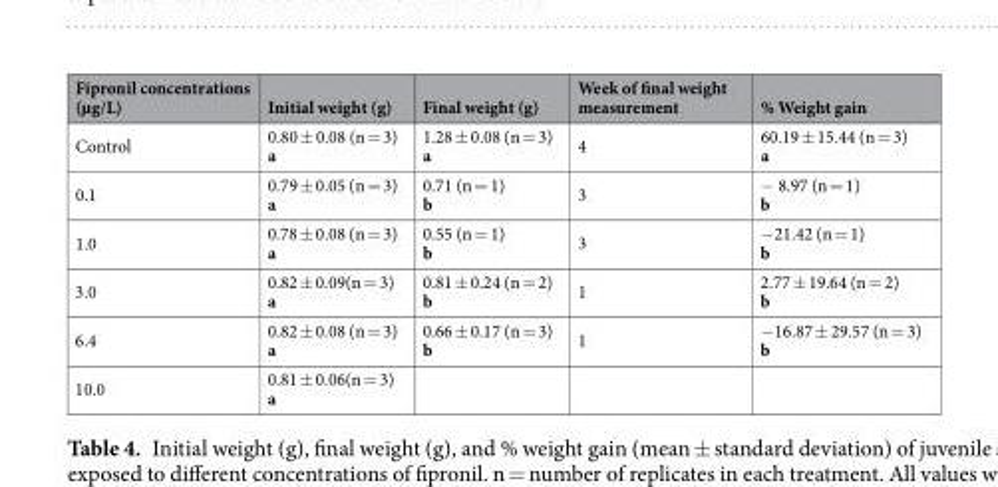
<table><thead><tr><td>Fipronil concentrations (µg/L)</td><td>Initial weight (g)</td><td>Final weight (g)</td><td>Week of final weight measurement</td><td>% Weight gain</td></tr></thead><tbody><tr><td>Control</td><td>0.80 ± 0.08 (n = 3) a</td><td>1.28 ± 0.08 (n = 3) a</td><td>4</td><td>60.19 ± 15.44 (n = 3) a</td></tr><tr><td>0.1</td><td>0.79 ± 0.05 (n = 3) a</td><td>0.71 (n = 1) b</td><td>3</td><td>− 8.97 (n = 1) b</td></tr><tr><td>1.0</td><td>0.78 ± 0.08 (n = 3) a</td><td>0.55 (n = 1) b</td><td>3</td><td>−21.42 (n = 1) b</td></tr><tr><td>3.0</td><td>0.82 ± 0.09(n = 3) a</td><td>0.81 ± 0.24 (n = 2) b</td><td>1</td><td>2.77 ± 19.64 (n = 2) b</td></tr><tr><td>6.4</td><td>0.82 ± 0.08 (n = 3) a</td><td>0.66 ± 0.17 (n = 3) b</td><td>1</td><td>−16.87 ± 29.57 (n = 3) b</td></tr><tr><td>10.0</td><td>0.81 ± 0.06(n = 3) a</td><td></td><td></td><td></td></tr></tbody></table>